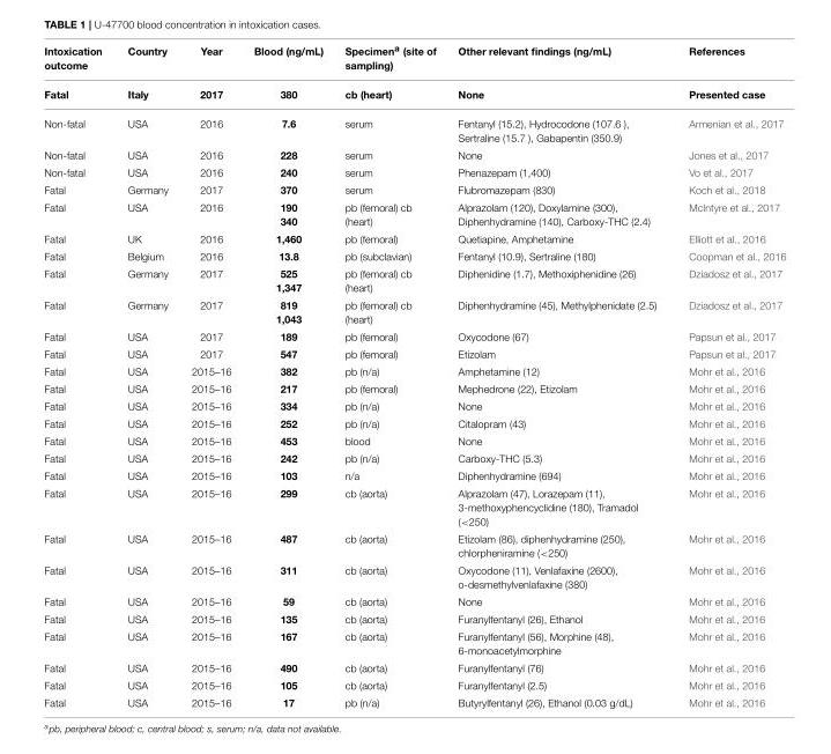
<table><thead><tr><td>Intoxication outcome</td><td>Country</td><td>Year</td><td>Blood (ng/mL)</td><td>Specimen<sup>a</sup> (site of sampling)</td><td>Other relevant findings (ng/mL)</td><td>References</td></tr></thead><tbody><tr><td>Fatal</td><td>Italy</td><td>2017</td><td>380</td><td>cb (heart)</td><td>None</td><td>Presented case</td></tr><tr><td>Non-fatal</td><td>USA</td><td>2016</td><td>7.6</td><td>serum</td><td>Fentanyl (15.2), Hydrocodone (107.6 ), Sertraline (15.7 ), Gabapentin (350.9)</td><td>Armenian et al., 2017</td></tr><tr><td>Non-fatal</td><td>USA</td><td>2016</td><td>228</td><td>serum</td><td>None</td><td>Jones et al., 2017</td></tr><tr><td>Non-fatal</td><td>USA</td><td>2016</td><td>240</td><td>serum</td><td>Phenazepam (1,400)</td><td>Vo et al., 2017</td></tr><tr><td>Fatal</td><td>Germany</td><td>2017</td><td>370</td><td>serum</td><td>Flubromazepam (830)</td><td>Koch et al., 2018</td></tr><tr><td>Fatal</td><td>USA</td><td>2016</td><td>190 340</td><td>pb (femoral) cb (heart)</td><td>Alprazolam (120), Doxylamine (300), Diphenhydramine (140), Carboxy-THC (2.4)</td><td>McIntyre et al., 2017</td></tr><tr><td>Fatal</td><td>UK</td><td>2016</td><td>1,460</td><td>pb (femoral)</td><td>Quetiapine, Amphetamine</td><td>Elliott et al., 2016</td></tr><tr><td>Fatal</td><td>Belgium</td><td>2016</td><td>13.8</td><td>pb (subclavian)</td><td>Fentanyl (10.9), Sertraline (180)</td><td>Coopman et al., 2016</td></tr><tr><td>Fatal</td><td>Germany</td><td>2017</td><td>525 1,347</td><td>pb (femoral) cb (heart)</td><td>Diphenidine (1.7), Methoxiphenidine (26)</td><td>Dziadosz et al., 2017</td></tr><tr><td>Fatal</td><td>Germany</td><td>2017</td><td>819 1,043</td><td>pb (femoral) cb (heart)</td><td>Diphenhydramine (45), Methylphenidate (2.5)</td><td>Dziadosz et al., 2017</td></tr><tr><td>Fatal</td><td>USA</td><td>2017</td><td>189</td><td>pb (femoral)</td><td>Oxycodone (67)</td><td>Papsun et al., 2017</td></tr><tr><td>Fatal</td><td>USA</td><td>2017</td><td>547</td><td>pb (femoral)</td><td>Etizolam</td><td>Papsun et al., 2017</td></tr><tr><td>Fatal</td><td>USA</td><td>2015–16</td><td>382</td><td>pb (n/a)</td><td>Amphetamine (12)</td><td>Mohr et al., 2016</td></tr><tr><td>Fatal</td><td>USA</td><td>2015–16</td><td>217</td><td>pb (femoral)</td><td>Mephedrone (22), Etizolam</td><td>Mohr et al., 2016</td></tr><tr><td>Fatal</td><td>USA</td><td>2015–16</td><td>334</td><td>pb (n/a)</td><td>None</td><td>Mohr et al., 2016</td></tr><tr><td>Fatal</td><td>USA</td><td>2015–16</td><td>252</td><td>pb (n/a)</td><td>Citalopram (43)</td><td>Mohr et al., 2016</td></tr><tr><td>Fatal</td><td>USA</td><td>2015–16</td><td>453</td><td>blood</td><td>None</td><td>Mohr et al., 2016</td></tr><tr><td>Fatal</td><td>USA</td><td>2015–16</td><td>242</td><td>pb (n/a)</td><td>Carboxy-THC (5.3)</td><td>Mohr et al., 2016</td></tr><tr><td>Fatal</td><td>USA</td><td>2015–16</td><td>103</td><td>n/a</td><td>Diphenhydramine (694)</td><td>Mohr et al., 2016</td></tr><tr><td>Fatal</td><td>USA</td><td>2015–16</td><td>299</td><td>cb (aorta)</td><td>Alprazolam (47), Lorazepam (11), 3-methoxyphencyclidine (180), Tramadol (&lt;250)</td><td>Mohr et al., 2016</td></tr><tr><td>Fatal</td><td>USA</td><td>2015–16</td><td>487</td><td>cb (aorta)</td><td>Etizolam (86), diphenhydramine (250), chlorpheniramine (&lt;250)</td><td>Mohr et al., 2016</td></tr><tr><td>Fatal</td><td>USA</td><td>2015–16</td><td>311</td><td>cb (aorta)</td><td>Oxycodone (11), Venlafaxine (2600), o-desmethylvenlafaxine (380)</td><td>Mohr et al., 2016</td></tr><tr><td>Fatal</td><td>USA</td><td>2015–16</td><td>59</td><td>cb (aorta)</td><td>None</td><td>Mohr et al., 2016</td></tr><tr><td>Fatal</td><td>USA</td><td>2015–16</td><td>135</td><td>cb (aorta)</td><td>Furanylfentanyl (26), Ethanol</td><td>Mohr et al., 2016</td></tr><tr><td>Fatal</td><td>USA</td><td>2015–16</td><td>167</td><td>cb (aorta)</td><td>Furanylfentanyl (56), Morphine (48), 6-monoacetylmorphine</td><td>Mohr et al., 2016</td></tr><tr><td>Fatal</td><td>USA</td><td>2015–16</td><td>490</td><td>cb (aorta)</td><td>Furanylfentanyl (76)</td><td>Mohr et al., 2016</td></tr><tr><td>Fatal</td><td>USA</td><td>2015–16</td><td>105</td><td>cb (aorta)</td><td>Furanylfentanyl (2.5)</td><td>Mohr et al., 2016</td></tr><tr><td>Fatal</td><td>USA</td><td>2015–16</td><td>17</td><td>pb (n/a)</td><td>Butyrylfentanyl (26), Ethanol (0.03 g/dL)</td><td>Mohr et al., 2016</td></tr></tbody></table>